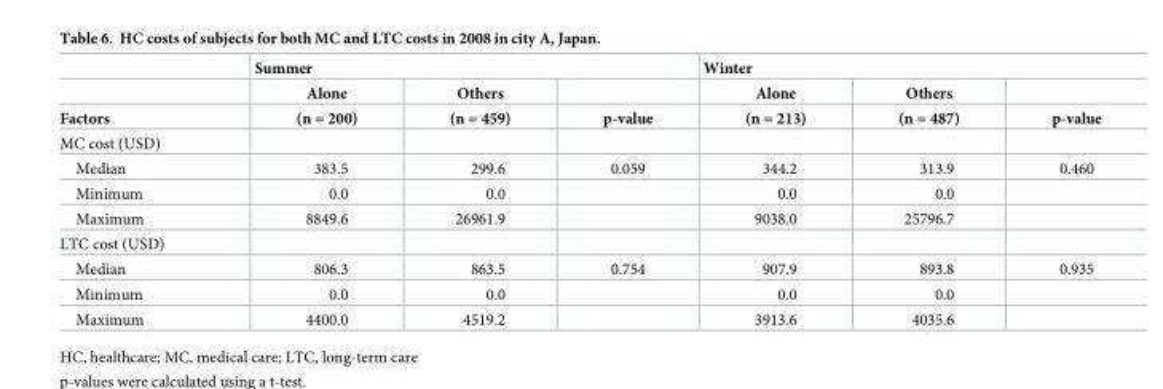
<table><thead><tr><td rowspan="3">Factors</td><td colspan="3">Summer</td><td colspan="3">Winter</td></tr><tr><td rowspan="2">Alone (n = 200)</td><td rowspan="2">Others (n = 459)</td><td rowspan="2">p-value</td><td rowspan="2">Alone (n = 213)</td><td rowspan="2">Others (n = 487)</td><td rowspan="2">p-value</td></tr><tr></tr></thead><tbody><tr><td colspan="7">MC cost (USD)</td></tr><tr><td>Median</td><td>383.5</td><td>299.6</td><td>0.059</td><td>344.2</td><td>313.9</td><td>0.460</td></tr><tr><td>Minimum</td><td>0.0</td><td>0.0</td><td></td><td>0.0</td><td>0.0</td><td></td></tr><tr><td>Maximum</td><td>8849.6</td><td>26961.9</td><td></td><td>9038.0</td><td>25796.7</td><td></td></tr><tr><td colspan="7">LTC cost (USD)</td></tr><tr><td>Median</td><td>806.3</td><td>863.5</td><td>0.754</td><td>907.9</td><td>893.8</td><td>0.935</td></tr><tr><td>Minimum</td><td>0.0</td><td>0.0</td><td></td><td>0.0</td><td>0.0</td><td></td></tr><tr><td>Maximum</td><td>4400.0</td><td>4519.2</td><td></td><td>3913.6</td><td>4035.6</td><td></td></tr></tbody></table>